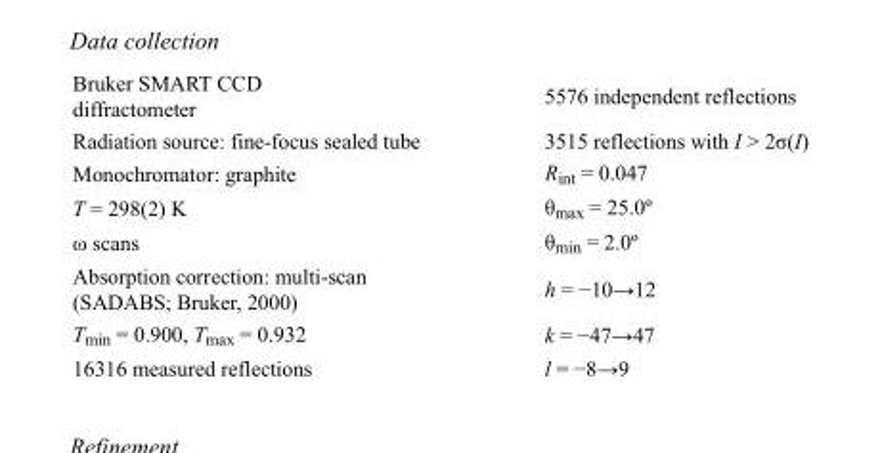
<table><tbody><tr><td>Bruker SMART CCD diffractometer</td><td>5576 independent reflections</td></tr><tr><td>Radiation source: fine-focus sealed tube</td><td>3515 reflections with I &gt; 2σ(I)</td></tr><tr><td>Monochromator: graphite</td><td>R<sub>int</sub> = 0.047</td></tr><tr><td>T = 298(2) K</td><td>θ<sub>max</sub> = 25.0º</td></tr><tr><td>ω scans</td><td>θ<sub>min</sub> = 2.0º</td></tr><tr><td>Absorption correction: multi-scan (SADABS; Bruker, 2000)</td><td>h = −10→12</td></tr><tr><td>T<sub>min</sub> = 0.900, T<sub>max</sub> = 0.932</td><td>k = −47→47</td></tr><tr><td>16316 measured reflections</td><td>l = −8→9</td></tr></tbody></table>